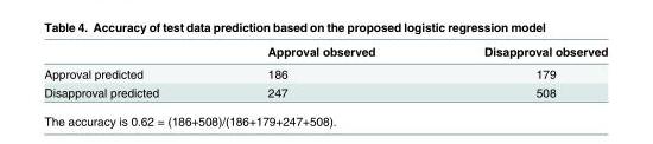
<table><thead><tr><td></td><td>Approval observed</td><td>Disapproval observed</td></tr></thead><tbody><tr><td>Approval predicted</td><td>186</td><td>179</td></tr><tr><td>Disapproval predicted</td><td>247</td><td>508</td></tr></tbody></table>